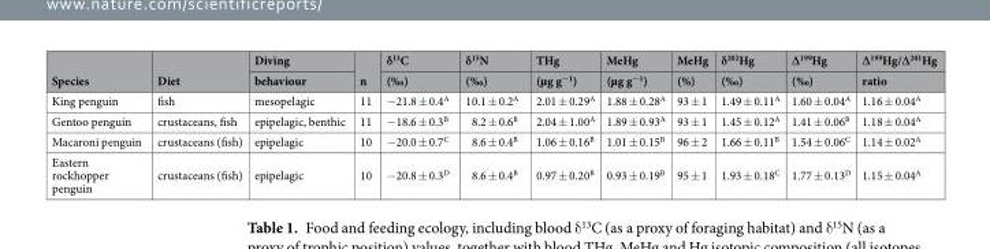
<table><thead><tr><td rowspan="2">Species</td><td rowspan="2">Diet</td><td rowspan="2">Diving behaviour</td><td rowspan="2">n</td><td rowspan="2">δ<sup>13</sup>C (‰)</td><td rowspan="2">δ<sup>15</sup>N (‰)</td><td rowspan="2">THg (µg g<sup>−1</sup>)</td><td rowspan="2">MeHg (µg g<sup>−1</sup>)</td><td rowspan="2">MeHg (%)</td><td rowspan="2">δ<sup>202</sup>Hg (‰)</td><td rowspan="2">∆<sup>199</sup>Hg (‰)</td><td rowspan="2">∆<sup>199</sup>Hg/∆<sup>201</sup>Hg ratio</td></tr><tr></tr></thead><tbody><tr><td>King penguin</td><td>fish</td><td>mesopelagic</td><td>11</td><td>−21.8 ± 0.4<sup>A</sup></td><td>10.1 ± 0.2<sup>A</sup></td><td>2.01 ± 0.29<sup>A</sup></td><td>1.88 ± 0.28<sup>A</sup></td><td>93 ± 1</td><td>1.49 ± 0.11<sup>A</sup></td><td>1.60 ± 0.04<sup>A</sup></td><td>1.16 ± 0.04<sup>A</sup></td></tr><tr><td>Gentoo penguin</td><td>crustaceans, fish</td><td>epipelagic, benthic</td><td>11</td><td>−18.6 ± 0.3<sup>B</sup></td><td>8.2 ± 0.6<sup>B</sup></td><td>2.04 ± 1.00<sup>A</sup></td><td>1.89 ± 0.93<sup>A</sup></td><td>93 ± 1</td><td>1.45 ± 0.12<sup>A</sup></td><td>1.41 ± 0.06<sup>B</sup></td><td>1.18 ± 0.04<sup>A</sup></td></tr><tr><td>Macaroni penguin</td><td>crustaceans (fish)</td><td>epipelagic</td><td>10</td><td>−20.0 ± 0.7<sup>C</sup></td><td>8.6 ± 0.4<sup>B</sup></td><td>1.06 ± 0.16<sup>B</sup></td><td>1.01 ± 0.15<sup>B</sup></td><td>96 ± 2</td><td>1.66 ± 0.11<sup>B</sup></td><td>1.54 ± 0.06<sup>C</sup></td><td>1.14 ± 0.02<sup>A</sup></td></tr><tr><td>Eastern rockhopper penguin</td><td>crustaceans (fish)</td><td>epipelagic</td><td>10</td><td>−20.8 ± 0.3<sup>D</sup></td><td>8.6 ± 0.4<sup>B</sup></td><td>0.97 ± 0.20<sup>B</sup></td><td>0.93 ± 0.19<sup>B</sup></td><td>95 ± 1</td><td>1.93 ± 0.18<sup>C</sup></td><td>1.77 ± 0.13<sup>D</sup></td><td>1.15 ± 0.04<sup>A</sup></td></tr></tbody></table>